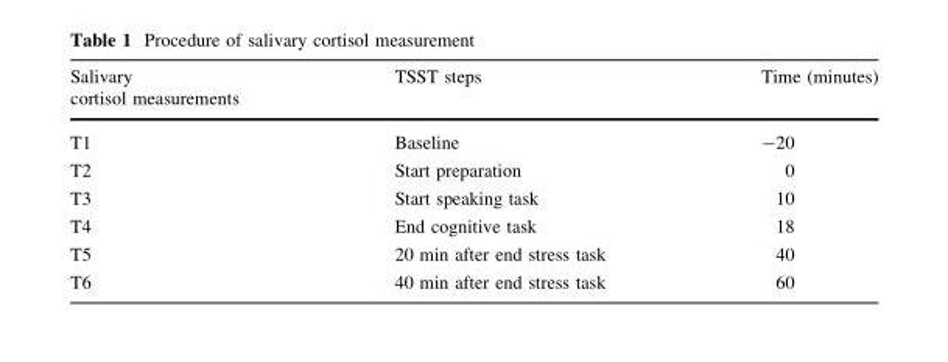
<table><thead><tr><td>Salivary cortisol measurements</td><td>TSST steps</td><td>Time (minutes)</td></tr></thead><tbody><tr><td>T1</td><td>Baseline</td><td>-20</td></tr><tr><td>T2</td><td>Start preparation</td><td>0</td></tr><tr><td>T3</td><td>Start speaking task</td><td>10</td></tr><tr><td>T4</td><td>End cognitive task</td><td>18</td></tr><tr><td>T5</td><td>20 min after end stress task</td><td>40</td></tr><tr><td>T6</td><td>40 min after end stress task</td><td>60</td></tr></tbody></table>